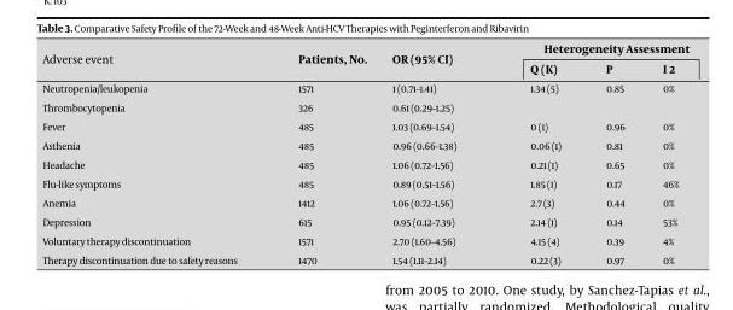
<table><thead><tr><td rowspan="2">Adverse event</td><td rowspan="2">Patients, No.</td><td rowspan="2">OR (95% CI)</td><td colspan="3">Heterogeneity Assessment</td></tr><tr><td>Q (K)</td><td>P</td><td>I 2</td></tr></thead><tbody><tr><td>Neutropenia/leukopenia</td><td>1571</td><td>1 (0.71–1.41)</td><td>1.34 (5)</td><td>0.85</td><td>0%</td></tr><tr><td>Thrombocytopenia</td><td>326</td><td>0.61 (0.29–1.25)</td><td></td><td></td><td></td></tr><tr><td>Fever</td><td>485</td><td>1.03 (0.69–1.54)</td><td>0 (1)</td><td>0.96</td><td>0%</td></tr><tr><td>Asthenia</td><td>485</td><td>0.96 (0.66–1.38)</td><td>0.06 (1)</td><td>0.81</td><td>0%</td></tr><tr><td>Headache</td><td>485</td><td>1.06 (0.72–1.56)</td><td>0.21 (1)</td><td>0.65</td><td>0%</td></tr><tr><td>Flu-like symptoms</td><td>485</td><td>0.89 (0.51–1.56)</td><td>1.85 (1)</td><td>0.17</td><td>46%</td></tr><tr><td>Anemia</td><td>1412</td><td>1.06 (0.72–1.56)</td><td>2.7 (3)</td><td>0.44</td><td>0%</td></tr><tr><td>Depression</td><td>615</td><td>0.95 (0.12–7.39)</td><td>2.14 (1)</td><td>0.14</td><td>53%</td></tr><tr><td>Voluntary therapy discontinuation</td><td>1571</td><td>2.70 (1.60–4.56)</td><td>4.15 (4)</td><td>0.39</td><td>4%</td></tr><tr><td>Therapy discontinuation due to safety reasons</td><td>1470</td><td>1.54 (1.11–2.14)</td><td>0.22 (3)</td><td>0.97</td><td>0%</td></tr></tbody></table>